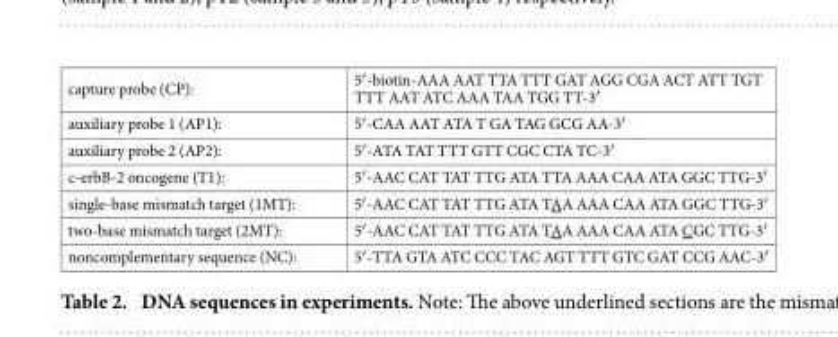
<table><tbody><tr><td>capture probe (CP):</td><td>5′ -biotin-AAA AAT TTA TTT GAT AGG CGA ACT ATT TGT TTT AAT ATC AAA TAA TGG TT-3′</td></tr><tr><td>auxiliary probe 1 (AP1):</td><td>5′ -CAA AAT ATA T GA TAG GCG AA-3′</td></tr><tr><td>auxiliary probe 2 (AP2):</td><td>5′ -ATA TAT TTT GTT CGC CTA TC-3′</td></tr><tr><td>c-erbB-2 oncogene (T1):</td><td>5′ -AAC CAT TAT TTG ATA TTA AAA CAA ATA GGC TTG-3′</td></tr><tr><td>single-base mismatch target (1MT):</td><td>5′ -AAC CAT TAT TTG ATA TAA AAA CAA ATA GGC TTG-3′</td></tr><tr><td>two-base mismatch target (2MT):</td><td>5′ -AAC CAT TAT TTG ATA TAA AAA CAA ATA CGC TTG-3′</td></tr><tr><td>noncomplementary sequence (NC):</td><td>5′ -TTA GTA ATC CCC TAC AGT TTT GTC GAT CCG AAC-3′</td></tr></tbody></table>